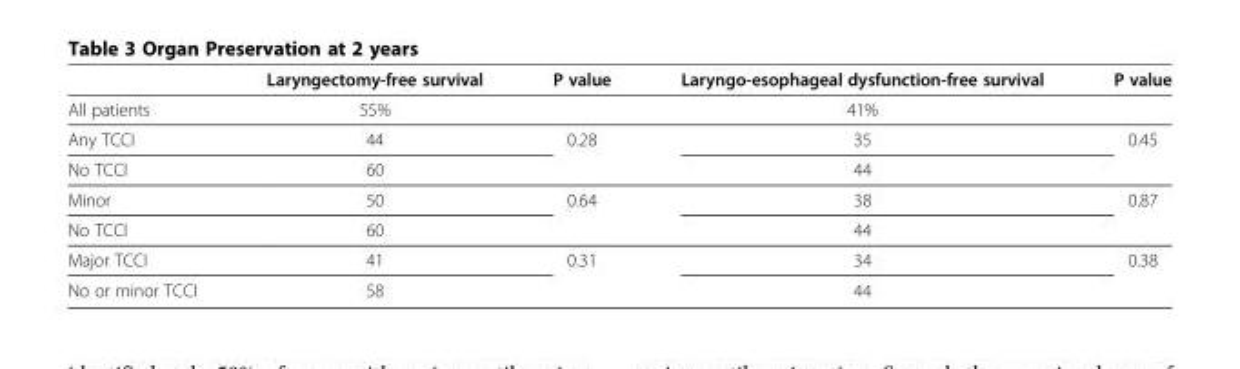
<table><thead><tr><td></td><td>Laryngectomy-free survival</td><td>P value</td><td>Laryngo-esophageal dysfunction-free survival</td><td>P value</td></tr></thead><tbody><tr><td>All patients</td><td>55%</td><td></td><td>41%</td><td></td></tr><tr><td>Any TCCI</td><td>44</td><td>0.28</td><td>35</td><td>0.45</td></tr><tr><td>No TCCI</td><td>60</td><td></td><td>44</td><td></td></tr><tr><td>Minor</td><td>50</td><td>0.64</td><td>38</td><td>0.87</td></tr><tr><td>No TCCI</td><td>60</td><td></td><td>44</td><td></td></tr><tr><td>Major TCCI</td><td>41</td><td>0.31</td><td>34</td><td>0.38</td></tr><tr><td>No or minor TCCI</td><td>58</td><td></td><td>44</td><td></td></tr></tbody></table>